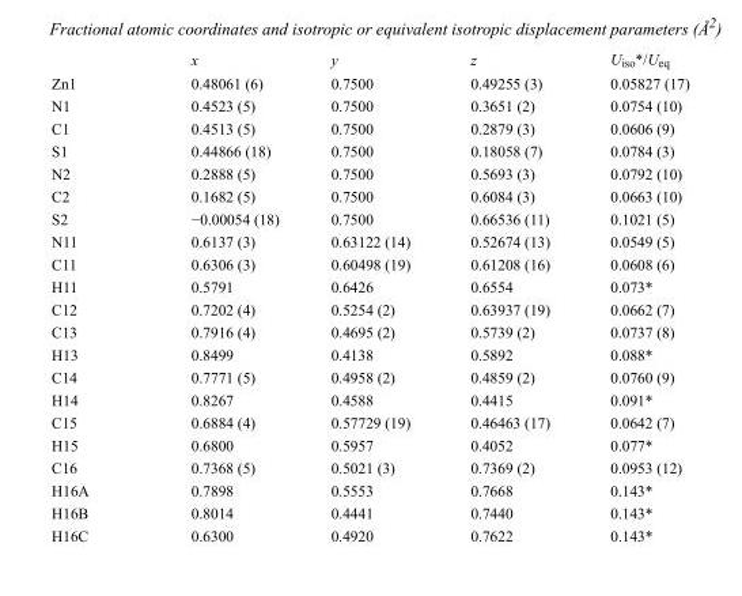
<table><thead><tr><td></td><td>x</td><td>y</td><td>z</td><td>U<sub>iso</sub>*/U<sub>eq</sub></td></tr></thead><tbody><tr><td>Zn1</td><td>0.48061 (6)</td><td>0.7500</td><td>0.49255 (3)</td><td>0.05827 (17)</td></tr><tr><td>N1</td><td>0.4523 (5)</td><td>0.7500</td><td>0.3651 (2)</td><td>0.0754 (10)</td></tr><tr><td>C1</td><td>0.4513 (5)</td><td>0.7500</td><td>0.2879 (3)</td><td>0.0606 (9)</td></tr><tr><td>S1</td><td>0.44866 (18)</td><td>0.7500</td><td>0.18058 (7)</td><td>0.0784 (3)</td></tr><tr><td>N2</td><td>0.2888 (5)</td><td>0.7500</td><td>0.5693 (3)</td><td>0.0792 (10)</td></tr><tr><td>C2</td><td>0.1682 (5)</td><td>0.7500</td><td>0.6084 (3)</td><td>0.0663 (10)</td></tr><tr><td>S2</td><td>−0.00054 (18)</td><td>0.7500</td><td>0.66536 (11)</td><td>0.1021 (5)</td></tr><tr><td>N11</td><td>0.6137 (3)</td><td>0.63122 (14)</td><td>0.52674 (13)</td><td>0.0549 (5)</td></tr><tr><td>C11</td><td>0.6306 (3)</td><td>0.60498 (19)</td><td>0.61208 (16)</td><td>0.0608 (6)</td></tr><tr><td>H11</td><td>0.5791</td><td>0.6426</td><td>0.6554</td><td>0.073*</td></tr><tr><td>C12</td><td>0.7202 (4)</td><td>0.5254 (2)</td><td>0.63937 (19)</td><td>0.0662 (7)</td></tr><tr><td>C13</td><td>0.7916 (4)</td><td>0.4695 (2)</td><td>0.5739 (2)</td><td>0.0737 (8)</td></tr><tr><td>H13</td><td>0.8499</td><td>0.4138</td><td>0.5892</td><td>0.088*</td></tr><tr><td>C14</td><td>0.7771 (5)</td><td>0.4958 (2)</td><td>0.4859 (2)</td><td>0.0760 (9)</td></tr><tr><td>H14</td><td>0.8267</td><td>0.4588</td><td>0.4415</td><td>0.091*</td></tr><tr><td>C15</td><td>0.6884 (4)</td><td>0.57729 (19)</td><td>0.46463 (17)</td><td>0.0642 (7)</td></tr><tr><td>H15</td><td>0.6800</td><td>0.5957</td><td>0.4052</td><td>0.077*</td></tr><tr><td>C16</td><td>0.7368 (5)</td><td>0.5021 (3)</td><td>0.7369 (2)</td><td>0.0953 (12)</td></tr><tr><td>H16A</td><td>0.7898</td><td>0.5553</td><td>0.7668</td><td>0.143*</td></tr><tr><td>H16B</td><td>0.8014</td><td>0.4441</td><td>0.7440</td><td>0.143*</td></tr><tr><td>H16C</td><td>0.6300</td><td>0.4920</td><td>0.7622</td><td>0.143*</td></tr></tbody></table>